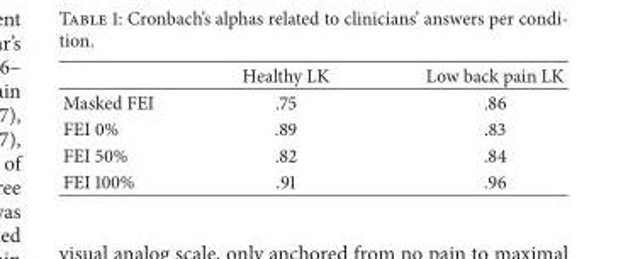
<table><thead><tr><td></td><td>Healthy LK</td><td>Low back pain LK</td></tr></thead><tbody><tr><td>Masked FEI</td><td>.75</td><td>.86</td></tr><tr><td>FEI 0%</td><td>.89</td><td>.83</td></tr><tr><td>FEI 50%</td><td>.82</td><td>.84</td></tr><tr><td>FEI 100%</td><td>.91</td><td>.96</td></tr></tbody></table>